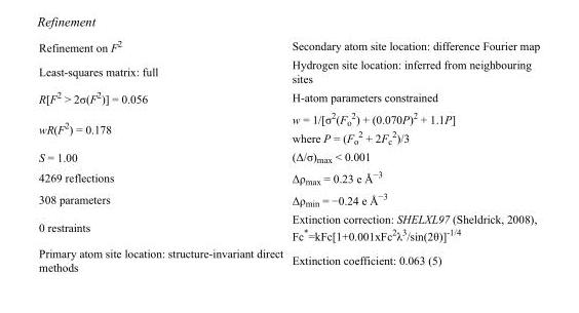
<table><tbody><tr><td>Refinement on F<sup>2</sup></td><td>Secondary atom site location: difference Fourier map</td></tr><tr><td>Least-squares matrix: full</td><td>Hydrogen site location: inferred from neighbouring sites</td></tr><tr><td>R[F<sup>2</sup> &gt; 2σ(F<sup>2</sup>)] = 0.056</td><td>H-atom parameters constrained</td></tr><tr><td>wR(F<sup>2</sup>) = 0.178</td><td>w = 1/[σ<sup>2</sup>(F<sub>o</sub> <sup>2</sup>) + (0.070P)<sup>2</sup> + 1.1P] where P = (F<sub>o</sub> <sup>2</sup> + 2F<sub>c</sub> <sup>2</sup>)/3</td></tr><tr><td>S = 1.00</td><td>(Δ/σ)<sub>max</sub> &lt; 0.001</td></tr><tr><td>4269 reflections</td><td>Δρ<sub>max</sub> = 0.23 e Å<sup>−3</sup></td></tr><tr><td>308 parameters</td><td>Δρ<sub>min</sub> = −0.24 e Å<sup>−3</sup></td></tr><tr><td>0 restraints</td><td>Extinction correction: SHELXL97 (Sheldrick, 2008), Fc*=kFc[1+0.001xFc<sup>2</sup>λ<sup>3</sup>/sin(2θ)]<sup>-1/4</sup></td></tr><tr><td>Primary atom site location: structure-invariant direct methods</td><td>Extinction coefficient: 0.063 (5)</td></tr></tbody></table>